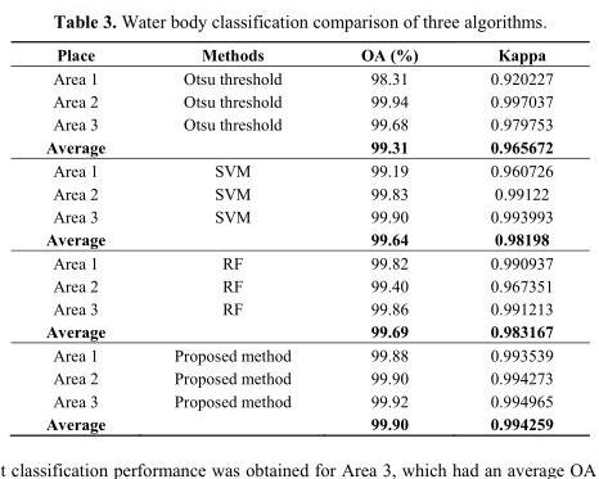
<table><thead><tr><td>Place</td><td>Methods</td><td>OA (%)</td><td>Kappa</td></tr></thead><tbody><tr><td>Area 1</td><td>Otsu threshold</td><td>98.31</td><td>0.920227</td></tr><tr><td>Area 2</td><td>Otsu threshold</td><td>99.94</td><td>0.997037</td></tr><tr><td>Area 3</td><td>Otsu threshold</td><td>99.68</td><td>0.979753</td></tr><tr><td>Average</td><td></td><td>99.31</td><td>0.965672</td></tr><tr><td>Area 1</td><td>SVM</td><td>99.19</td><td>0.960726</td></tr><tr><td>Area 2</td><td>SVM</td><td>99.83</td><td>0.99122</td></tr><tr><td>Area 3</td><td>SVM</td><td>99.90</td><td>0.993993</td></tr><tr><td>Average</td><td></td><td>99.64</td><td>0.98198</td></tr><tr><td>Area 1</td><td>RF</td><td>99.82</td><td>0.990937</td></tr><tr><td>Area 2</td><td>RF</td><td>99.40</td><td>0.967351</td></tr><tr><td>Area 3</td><td>RF</td><td>99.86</td><td>0.991213</td></tr><tr><td>Average</td><td></td><td>99.69</td><td>0.983167</td></tr><tr><td>Area 1</td><td>Proposed method</td><td>99.88</td><td>0.993539</td></tr><tr><td>Area 2</td><td>Proposed method</td><td>99.90</td><td>0.994273</td></tr><tr><td>Area 3</td><td>Proposed method</td><td>99.92</td><td>0.994965</td></tr><tr><td>Average</td><td></td><td>99.90</td><td>0.994259</td></tr></tbody></table>